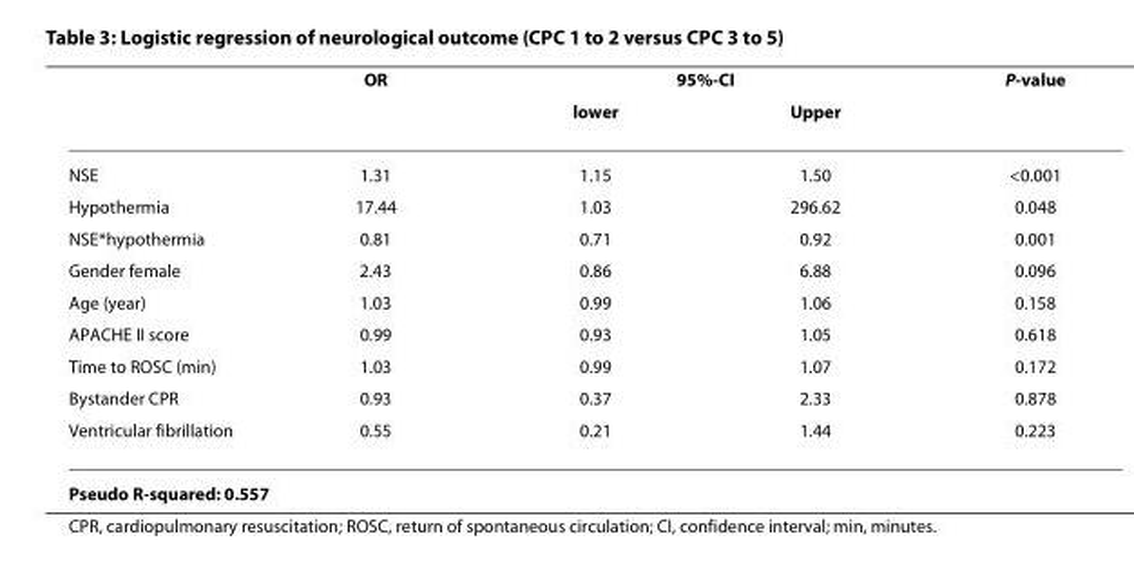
<table><thead><tr><td rowspan="2"></td><td rowspan="2">OR</td><td colspan="2">95%-CI</td><td rowspan="2">P-value</td></tr><tr><td>lower</td><td>Upper</td></tr></thead><tbody><tr><td>NSE</td><td>1.31</td><td>1.15</td><td>1.50</td><td>&lt;0.001</td></tr><tr><td>Hypothermia</td><td>17.44</td><td>1.03</td><td>296.62</td><td>0.048</td></tr><tr><td>NSE*hypothermia</td><td>0.81</td><td>0.71</td><td>0.92</td><td>0.001</td></tr><tr><td>Gender female</td><td>2.43</td><td>0.86</td><td>6.88</td><td>0.096</td></tr><tr><td>Age (year)</td><td>1.03</td><td>0.99</td><td>1.06</td><td>0.158</td></tr><tr><td>APACHE II score</td><td>0.99</td><td>0.93</td><td>1.05</td><td>0.618</td></tr><tr><td>Time to ROSC (min)</td><td>1.03</td><td>0.99</td><td>1.07</td><td>0.172</td></tr><tr><td>Bystander CPR</td><td>0.93</td><td>0.37</td><td>2.33</td><td>0.878</td></tr><tr><td>Ventricular fibrillation</td><td>0.55</td><td>0.21</td><td>1.44</td><td>0.223</td></tr><tr><td>Pseudo R-squared: 0.557</td><td></td><td></td><td></td><td></td></tr></tbody></table>